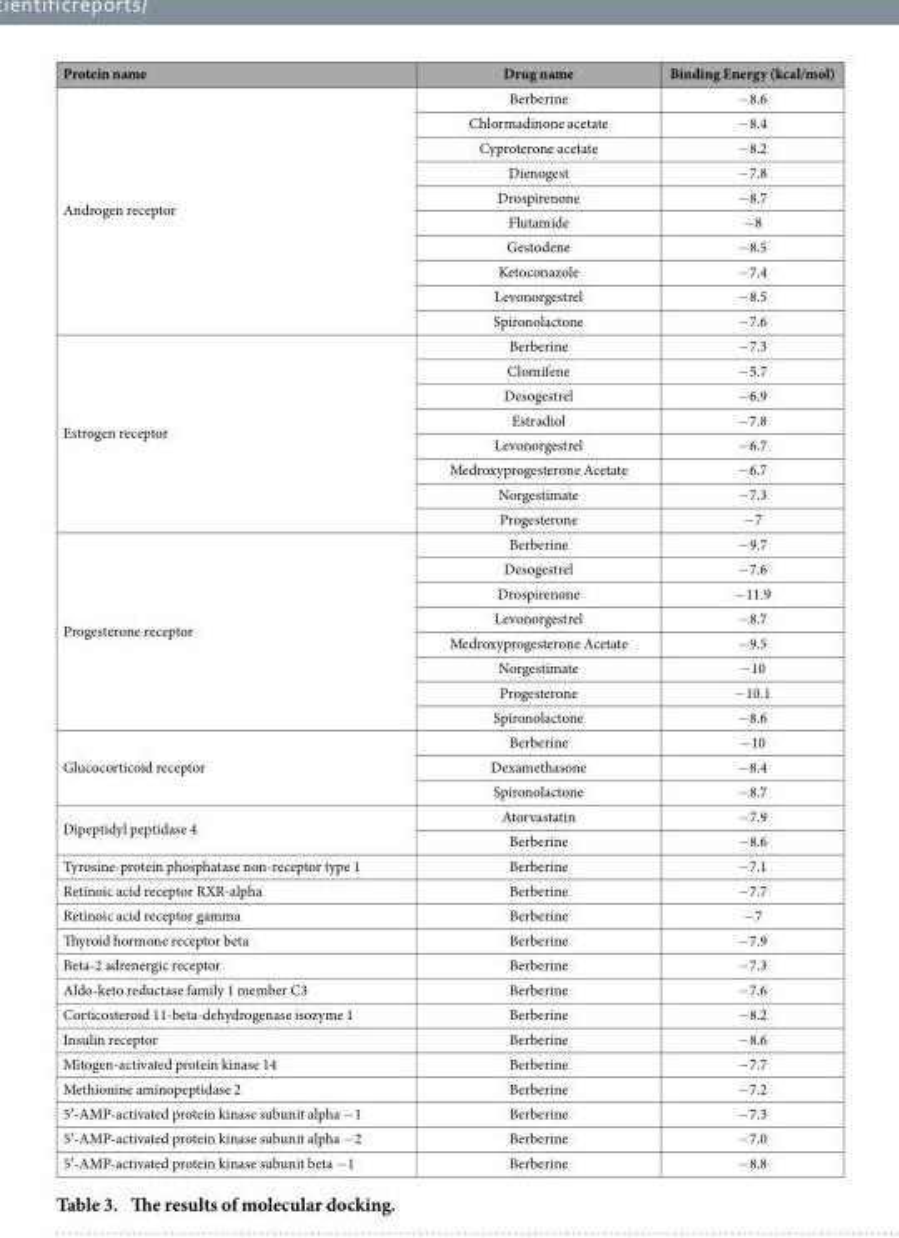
<table><thead><tr><td>Protein name</td><td>Drug name</td><td>Binding Energy (kcal/mol)</td></tr></thead><tbody><tr><td rowspan="10">Androgen receptor</td><td>Berberine</td><td>− 8.6</td></tr><tr><td>Chlormadinone acetate</td><td>− 8.4</td></tr><tr><td>Cyproterone acetate</td><td>− 8.2</td></tr><tr><td>Dienogest</td><td>− 7.8</td></tr><tr><td>Drospirenone</td><td>− 8.7</td></tr><tr><td>Flutamide</td><td>− 8</td></tr><tr><td>Gestodene</td><td>− 8.5</td></tr><tr><td>Ketoconazole</td><td>− 7.4</td></tr><tr><td>Levonorgestrel</td><td>− 8.5</td></tr><tr><td>Spironolactone</td><td>− 7.6</td></tr><tr><td rowspan="8">Estrogen receptor</td><td>Berberine</td><td>− 7.3</td></tr><tr><td>Clomifene</td><td>− 5.7</td></tr><tr><td>Desogestrel</td><td>− 6.9</td></tr><tr><td>Estradiol</td><td>− 7.8</td></tr><tr><td>Levonorgestrel</td><td>− 6.7</td></tr><tr><td>Medroxyprogesterone Acetate</td><td>− 6.7</td></tr><tr><td>Norgestimate</td><td>− 7.3</td></tr><tr><td>Progesterone</td><td>− 7</td></tr><tr><td rowspan="8">Progesterone receptor</td><td>Berberine</td><td>− 9.7</td></tr><tr><td>Desogestrel</td><td>− 7.6</td></tr><tr><td>Drospirenone</td><td>− 11.9</td></tr><tr><td>Levonorgestrel</td><td>− 8.7</td></tr><tr><td>Medroxyprogesterone Acetate</td><td>− 9.5</td></tr><tr><td>Norgestimate</td><td>− 10</td></tr><tr><td>Progesterone</td><td>− 10.1</td></tr><tr><td>Spironolactone</td><td>− 8.6</td></tr><tr><td rowspan="3">Glucocorticoid receptor</td><td>Berberine</td><td>− 10</td></tr><tr><td>Dexamethasone</td><td>− 8.4</td></tr><tr><td>Spironolactone</td><td>− 8.7</td></tr><tr><td rowspan="2">Dipeptidyl peptidase 4</td><td>Atorvastatin</td><td>− 7.9</td></tr><tr><td>Berberine</td><td>− 8.6</td></tr><tr><td>Tyrosine-protein phosphatase non-receptor type 1</td><td>Berberine</td><td>− 7.1</td></tr><tr><td>Retinoic acid receptor RXR-alpha</td><td>Berberine</td><td>− 7.7</td></tr><tr><td>Retinoic acid receptor gamma</td><td>Berberine</td><td>− 7</td></tr><tr><td>Thyroid hormone receptor beta</td><td>Berberine</td><td>− 7.9</td></tr><tr><td>Beta-2 adrenergic receptor</td><td>Berberine</td><td>− 7.3</td></tr><tr><td>Aldo-keto reductase family 1 member C3</td><td>Berberine</td><td>− 7.6</td></tr><tr><td>Corticosteroid 11-beta-dehydrogenase isozyme 1</td><td>Berberine</td><td>− 8.2</td></tr><tr><td>Insulin receptor</td><td>Berberine</td><td>− 8.6</td></tr><tr><td>Mitogen-activated protein kinase 14</td><td>Berberine</td><td>− 7.7</td></tr><tr><td>Methionine aminopeptidase 2</td><td>Berberine</td><td>− 7.2</td></tr><tr><td>5′ -AMP-activated protein kinase subunit alpha − 1</td><td>Berberine</td><td>− 7.3</td></tr><tr><td>5′ -AMP-activated protein kinase subunit alpha − 2</td><td>Berberine</td><td>− 7.0</td></tr><tr><td>5′ -AMP-activated protein kinase subunit beta − 1</td><td>Berberine</td><td>− 8.8</td></tr></tbody></table>